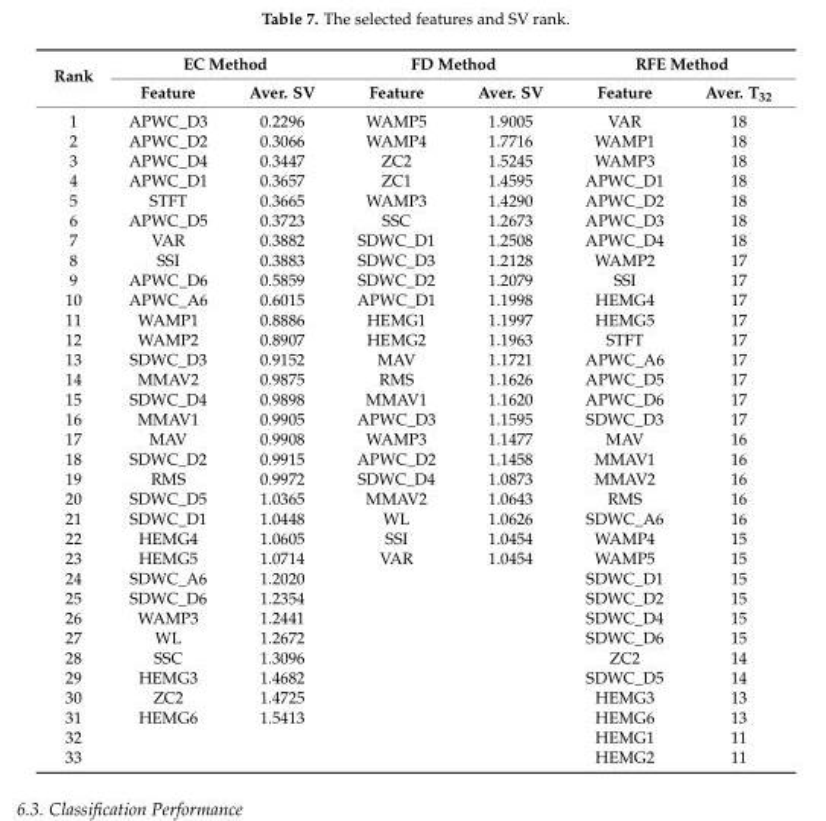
<table><thead><tr><td rowspan="2">Rank</td><td colspan="2">EC Method</td><td colspan="2">FD Method</td><td colspan="2">RFE Method</td></tr><tr><td>Feature</td><td>Aver. SV</td><td>Feature</td><td>Aver. SV</td><td>Feature</td><td>Aver. T<sub>32</sub></td></tr></thead><tbody><tr><td>1</td><td>APWC_D3</td><td>0.2296</td><td>WAMP5</td><td>1.9005</td><td>VAR</td><td>18</td></tr><tr><td>2</td><td>APWC_D2</td><td>0.3066</td><td>WAMP4</td><td>1.7716</td><td>WAMP1</td><td>18</td></tr><tr><td>3</td><td>APWC_D4</td><td>0.3447</td><td>ZC2</td><td>1.5245</td><td>WAMP3</td><td>18</td></tr><tr><td>4</td><td>APWC_D1</td><td>0.3657</td><td>ZC1</td><td>1.4595</td><td>APWC_D1</td><td>18</td></tr><tr><td>5</td><td>STFT</td><td>0.3665</td><td>WAMP3</td><td>1.4290</td><td>APWC_D2</td><td>18</td></tr><tr><td>6</td><td>APWC_D5</td><td>0.3723</td><td>SSC</td><td>1.2673</td><td>APWC_D3</td><td>18</td></tr><tr><td>7</td><td>VAR</td><td>0.3882</td><td>SDWC_D1</td><td>1.2508</td><td>APWC_D4</td><td>18</td></tr><tr><td>8</td><td>SSI</td><td>0.3883</td><td>SDWC_D3</td><td>1.2128</td><td>WAMP2</td><td>17</td></tr><tr><td>9</td><td>APWC_D6</td><td>0.5859</td><td>SDWC_D2</td><td>1.2079</td><td>SSI</td><td>17</td></tr><tr><td>10</td><td>APWC_A6</td><td>0.6015</td><td>APWC_D1</td><td>1.1998</td><td>HEMG4</td><td>17</td></tr><tr><td>11</td><td>WAMP1</td><td>0.8886</td><td>HEMG1</td><td>1.1997</td><td>HEMG5</td><td>17</td></tr><tr><td>12</td><td>WAMP2</td><td>0.8907</td><td>HEMG2</td><td>1.1963</td><td>STFT</td><td>17</td></tr><tr><td>13</td><td>SDWC_D3</td><td>0.9152</td><td>MAV</td><td>1.1721</td><td>APWC_A6</td><td>17</td></tr><tr><td>14</td><td>MMAV2</td><td>0.9875</td><td>RMS</td><td>1.1626</td><td>APWC_D5</td><td>17</td></tr><tr><td>15</td><td>SDWC_D4</td><td>0.9898</td><td>MMAV1</td><td>1.1620</td><td>APWC_D6</td><td>17</td></tr><tr><td>16</td><td>MMAV1</td><td>0.9905</td><td>APWC_D3</td><td>1.1595</td><td>SDWC_D3</td><td>17</td></tr><tr><td>17</td><td>MAV</td><td>0.9908</td><td>WAMP3</td><td>1.1477</td><td>MAV</td><td>16</td></tr><tr><td>18</td><td>SDWC_D2</td><td>0.9915</td><td>APWC_D2</td><td>1.1458</td><td>MMAV1</td><td>16</td></tr><tr><td>19</td><td>RMS</td><td>0.9972</td><td>SDWC_D4</td><td>1.0873</td><td>MMAV2</td><td>16</td></tr><tr><td>20</td><td>SDWC_D5</td><td>1.0365</td><td>MMAV2</td><td>1.0643</td><td>RMS</td><td>16</td></tr><tr><td>21</td><td>SDWC_D1</td><td>1.0448</td><td>WL</td><td>1.0626</td><td>SDWC_A6</td><td>16</td></tr><tr><td>22</td><td>HEMG4</td><td>1.0605</td><td>SSI</td><td>1.0454</td><td>WAMP4</td><td>15</td></tr><tr><td>23</td><td>HEMG5</td><td>1.0714</td><td>VAR</td><td>1.0454</td><td>WAMP5</td><td>15</td></tr><tr><td>24</td><td>SDWC_A6</td><td>1.2020</td><td></td><td></td><td>SDWC_D1</td><td>15</td></tr><tr><td>25</td><td>SDWC_D6</td><td>1.2354</td><td></td><td></td><td>SDWC_D2</td><td>15</td></tr><tr><td>26</td><td>WAMP3</td><td>1.2441</td><td></td><td></td><td>SDWC_D4</td><td>15</td></tr><tr><td>27</td><td>WL</td><td>1.2672</td><td></td><td></td><td>SDWC_D6</td><td>15</td></tr><tr><td>28</td><td>SSC</td><td>1.3096</td><td></td><td></td><td>ZC2</td><td>14</td></tr><tr><td>29</td><td>HEMG3</td><td>1.4682</td><td></td><td></td><td>SDWC_D5</td><td>14</td></tr><tr><td>30</td><td>ZC2</td><td>1.4725</td><td></td><td></td><td>HEMG3</td><td>13</td></tr><tr><td>31</td><td>HEMG6</td><td>1.5413</td><td></td><td></td><td>HEMG6</td><td>13</td></tr><tr><td>32</td><td></td><td></td><td></td><td></td><td>HEMG1</td><td>11</td></tr><tr><td>33</td><td></td><td></td><td></td><td></td><td>HEMG2</td><td>11</td></tr></tbody></table>